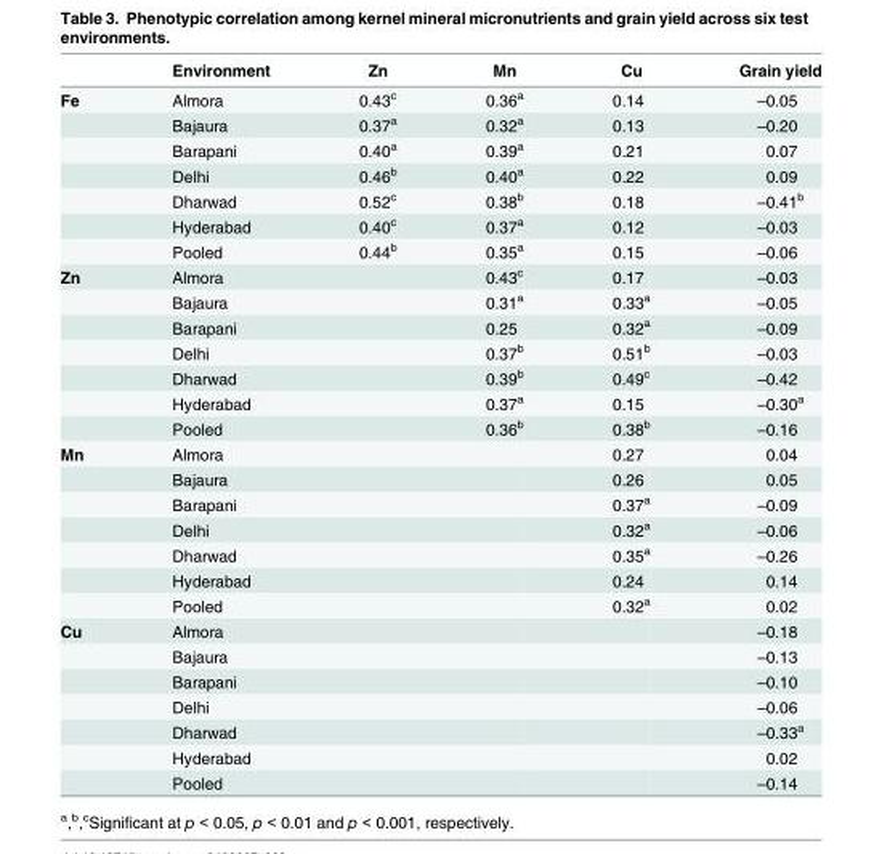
<table><thead><tr><td></td><td>Environment</td><td>Zn</td><td>Mn</td><td>Cu</td><td>Grain yield</td></tr></thead><tbody><tr><td rowspan="7">Fe</td><td>Almora</td><td>0.43<sup>c</sup></td><td>0.36<sup>a</sup></td><td>0.14</td><td>–0.05</td></tr><tr><td>Bajaura</td><td>0.37<sup>a</sup></td><td>0.32<sup>a</sup></td><td>0.13</td><td>–0.20</td></tr><tr><td>Barapani</td><td>0.40<sup>a</sup></td><td>0.39<sup>a</sup></td><td>0.21</td><td>0.07</td></tr><tr><td>Delhi</td><td>0.46<sup>b</sup></td><td>0.40<sup>a</sup></td><td>0.22</td><td>0.09</td></tr><tr><td>Dharwad</td><td>0.52<sup>c</sup></td><td>0.38<sup>b</sup></td><td>0.18</td><td>–0.41<sup>b</sup></td></tr><tr><td>Hyderabad</td><td>0.40<sup>c</sup></td><td>0.37<sup>a</sup></td><td>0.12</td><td>–0.03</td></tr><tr><td>Pooled</td><td>0.44<sup>b</sup></td><td>0.35<sup>a</sup></td><td>0.15</td><td>–0.06</td></tr><tr><td rowspan="7">Zn</td><td>Almora</td><td></td><td>0.43<sup>c</sup></td><td>0.17</td><td>–0.03</td></tr><tr><td>Bajaura</td><td></td><td>0.31<sup>a</sup></td><td>0.33<sup>a</sup></td><td>–0.05</td></tr><tr><td>Barapani</td><td></td><td>0.25</td><td>0.32<sup>a</sup></td><td>–0.09</td></tr><tr><td>Delhi</td><td></td><td>0.37<sup>b</sup></td><td>0.51<sup>b</sup></td><td>–0.03</td></tr><tr><td>Dharwad</td><td></td><td>0.39<sup>b</sup></td><td>0.49<sup>c</sup></td><td>–0.42</td></tr><tr><td>Hyderabad</td><td></td><td>0.37<sup>a</sup></td><td>0.15</td><td>–0.30<sup>a</sup></td></tr><tr><td>Pooled</td><td></td><td>0.36<sup>b</sup></td><td>0.38<sup>b</sup></td><td>–0.16</td></tr><tr><td rowspan="7">Mn</td><td>Almora</td><td></td><td></td><td>0.27</td><td>0.04</td></tr><tr><td>Bajaura</td><td></td><td></td><td>0.26</td><td>0.05</td></tr><tr><td>Barapani</td><td></td><td></td><td>0.37<sup>a</sup></td><td>–0.09</td></tr><tr><td>Delhi</td><td></td><td></td><td>0.32<sup>a</sup></td><td>–0.06</td></tr><tr><td>Dharwad</td><td></td><td></td><td>0.35<sup>a</sup></td><td>–0.26</td></tr><tr><td>Hyderabad</td><td></td><td></td><td>0.24</td><td>0.14</td></tr><tr><td>Pooled</td><td></td><td></td><td>0.32<sup>a</sup></td><td>0.02</td></tr><tr><td rowspan="7">Cu</td><td>Almora</td><td></td><td></td><td></td><td>–0.18</td></tr><tr><td>Bajaura</td><td></td><td></td><td></td><td>–0.13</td></tr><tr><td>Barapani</td><td></td><td></td><td></td><td>–0.10</td></tr><tr><td>Delhi</td><td></td><td></td><td></td><td>–0.06</td></tr><tr><td>Dharwad</td><td></td><td></td><td></td><td>–0.33<sup>a</sup></td></tr><tr><td>Hyderabad</td><td></td><td></td><td></td><td>0.02</td></tr><tr><td>Pooled</td><td></td><td></td><td></td><td>–0.14</td></tr></tbody></table>